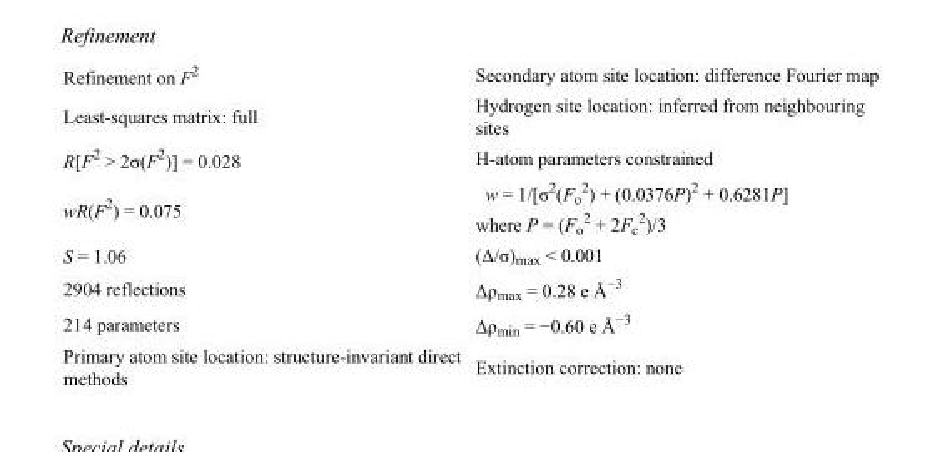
<table><tbody><tr><td>Refinement on F<sup>2</sup></td><td>Secondary atom site location: difference Fourier map</td></tr><tr><td>Least-squares matrix: full</td><td>Hydrogen site location: inferred from neighbouring sites</td></tr><tr><td>R[F<sup>2</sup> &gt; 2σ(F<sup>2</sup>)] = 0.028</td><td>H-atom parameters constrained</td></tr><tr><td>wR(F<sup>2</sup>) = 0.075</td><td>w = 1/[σ<sup>2</sup>(F<sub>o</sub> <sup>2</sup>) + (0.0376P)<sup>2</sup> + 0.6281P] where P = (F<sub>o</sub> <sup>2</sup> + 2F<sub>c</sub> <sup>2</sup>)/3</td></tr><tr><td>S = 1.06</td><td>(Δ/σ)<sub>max</sub> &lt; 0.001</td></tr><tr><td>2904 reflections</td><td>Δρ<sub>max</sub> = 0.28 e Å<sup>−3</sup></td></tr><tr><td>214 parameters</td><td>Δρ<sub>min</sub> = −0.60 e Å<sup>−3</sup></td></tr><tr><td>Primary atom site location: structure-invariant direct methods</td><td>Extinction correction: none</td></tr></tbody></table>